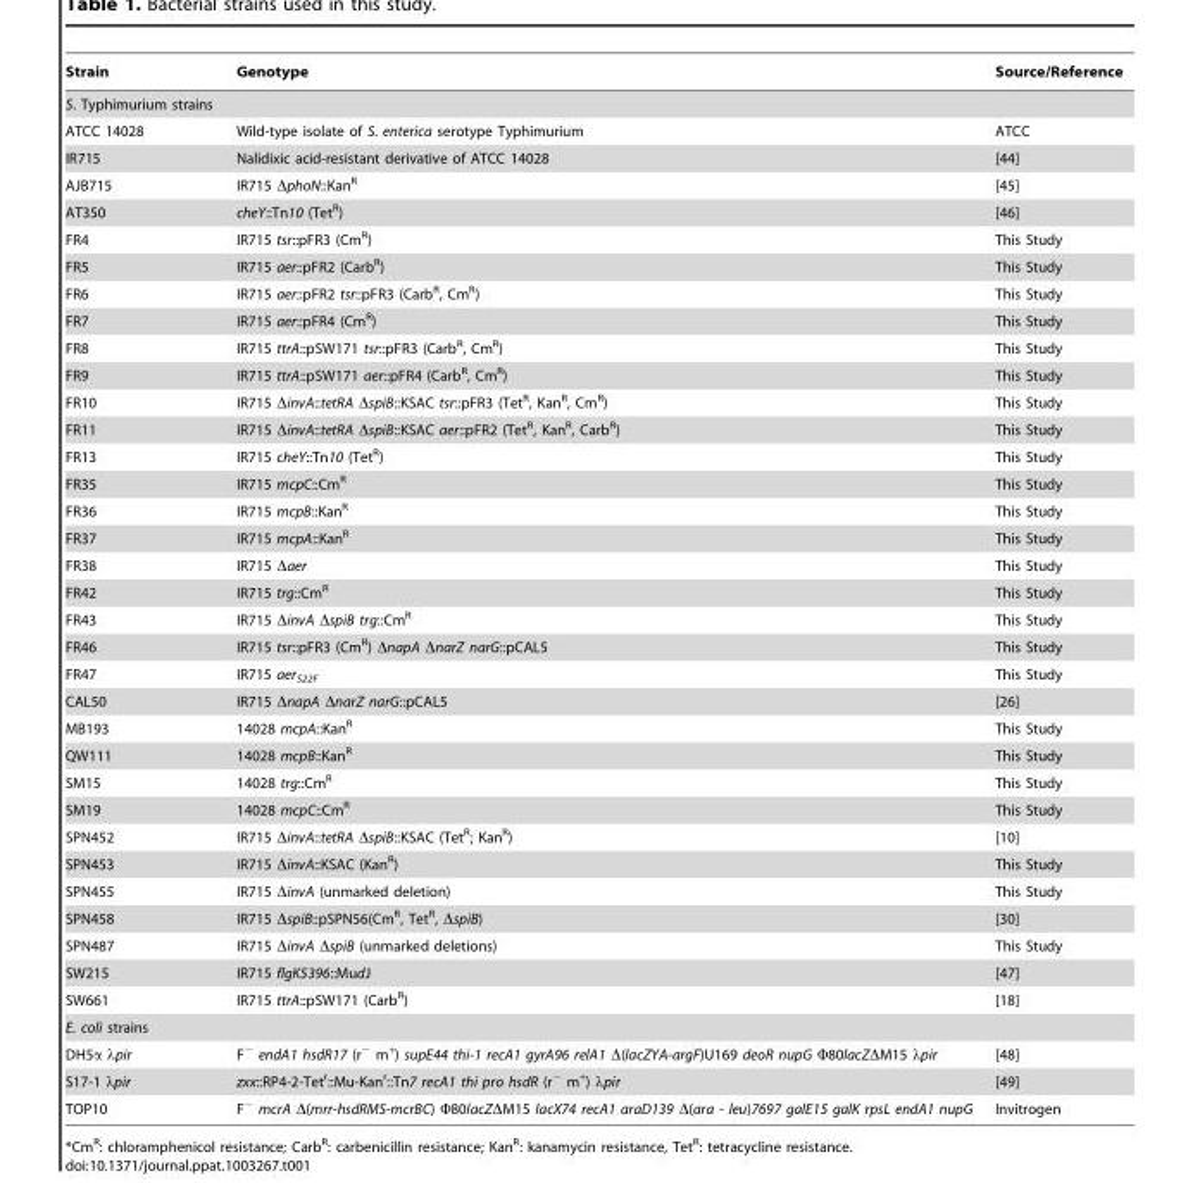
<table><thead><tr><td>Strain</td><td>Genotype</td><td>Source/Reference</td></tr></thead><tbody><tr><td colspan="3">S. Typhimurium strains</td></tr><tr><td>ATCC 14028</td><td>Wild-type isolate of S. enterica serotype Typhimurium</td><td>ATCC</td></tr><tr><td>IR715</td><td>Nalidixic acid-resistant derivative of ATCC 14028</td><td>[44]</td></tr><tr><td>AJB715</td><td>IR715 ΔphoN::Kan<sup>R</sup></td><td>[45]</td></tr><tr><td>AT350</td><td>cheY::Tn10 (Tet<sup>R</sup>)</td><td>[46]</td></tr><tr><td>FR4</td><td>IR715 tsr::pFR3 (Cm<sup>R</sup>)</td><td>This Study</td></tr><tr><td>FR5</td><td>IR715 aer::pFR2 (Carb<sup>R</sup>)</td><td>This Study</td></tr><tr><td>FR6</td><td>IR715 aer::pFR2 tsr::pFR3 (Carb<sup>R</sup>, Cm<sup>R</sup>)</td><td>This Study</td></tr><tr><td>FR7</td><td>IR715 aer::pFR4 (Cm<sup>R</sup>)</td><td>This Study</td></tr><tr><td>FR8</td><td>IR715 ttrA::pSW171 tsr::pFR3 (Carb<sup>R</sup>, Cm<sup>R</sup>)</td><td>This Study</td></tr><tr><td>FR9</td><td>IR715 ttrA::pSW171 aer::pFR4 (Carb<sup>R</sup>, Cm<sup>R</sup>)</td><td>This Study</td></tr><tr><td>FR10</td><td>IR715 ΔinvA::tetRA ΔspiB::KSAC tsr::pFR3 (Tet<sup>R</sup>, Kan<sup>R</sup>, Cm<sup>R</sup>)</td><td>This Study</td></tr><tr><td>FR11</td><td>IR715 ΔinvA::tetRA ΔspiB::KSAC aer::pFR2 (Tet<sup>R</sup>, Kan<sup>R</sup>, Carb<sup>R</sup>)</td><td>This Study</td></tr><tr><td>FR13</td><td>IR715 cheY::Tn10 (Tet<sup>R</sup>)</td><td>This Study</td></tr><tr><td>FR35</td><td>IR715 mcpC::Cm<sup>R</sup></td><td>This Study</td></tr><tr><td>FR36</td><td>IR715 mcpB::Kan<sup>R</sup></td><td>This Study</td></tr><tr><td>FR37</td><td>IR715 mcpA::Kan<sup>R</sup></td><td>This Study</td></tr><tr><td>FR38</td><td>IR715 Δaer</td><td>This Study</td></tr><tr><td>FR42</td><td>IR715 trg::Cm<sup>R</sup></td><td>This Study</td></tr><tr><td>FR43</td><td>IR715 ΔinvA ΔspiB trg::Cm<sup>R</sup></td><td>This Study</td></tr><tr><td>FR46</td><td>IR715 tsr::pFR3 (Cm<sup>R</sup>) ΔnapA ΔnarZ narG::pCAL5</td><td>This Study</td></tr><tr><td>FR47</td><td>IR715 aer<sub>S22F</sub></td><td>This Study</td></tr><tr><td>CAL50</td><td>IR715 ΔnapA ΔnarZ narG::pCAL5</td><td>[26]</td></tr><tr><td>MB193</td><td>14028 mcpA::Kan<sup>R</sup></td><td>This Study</td></tr><tr><td>QW111</td><td>14028 mcpB::Kan<sup>R</sup></td><td>This Study</td></tr><tr><td>SM15</td><td>14028 trg::Cm<sup>R</sup></td><td>This Study</td></tr><tr><td>SM19</td><td>14028 mcpC::Cm<sup>R</sup></td><td>This Study</td></tr><tr><td>SPN452</td><td>IR715 ΔinvA::tetRA ΔspiB::KSAC (Tet<sup>R</sup>; Kan<sup>R</sup>)</td><td>[10]</td></tr><tr><td>SPN453</td><td>IR715 ΔinvA::KSAC (Kan<sup>R</sup>)</td><td>This Study</td></tr><tr><td>SPN455</td><td>IR715 ΔinvA (unmarked deletion)</td><td>This Study</td></tr><tr><td>SPN458</td><td>IR715 ΔspiB::pSPN56(Cm<sup>R</sup>, Tet<sup>R</sup>, ΔspiB)</td><td>[30]</td></tr><tr><td>SPN487</td><td>IR715 ΔinvA ΔspiB (unmarked deletions)</td><td>This Study</td></tr><tr><td>SW215</td><td>IR715 flgK5396::MudJ</td><td>[47]</td></tr><tr><td>SW661</td><td>IR715 ttrA::pSW171 (Carb<sup>R</sup>)</td><td>[18]</td></tr><tr><td colspan="3">E. coli strains</td></tr><tr><td>DH5α λpir</td><td>F<sup>−</sup> endA1 hsdR17 (r<sup>−</sup> m<sup>+</sup>) supE44 thi-1 recA1 gyrA96 relA1 Δ(lacZYA-argF)U169 deoR nupG Φ80lacZΔM15 λpir</td><td>[48]</td></tr><tr><td>S17-1 λpir</td><td>zxx::RP4-2-Tet<sup>r</sup>::Mu-Kan<sup>r</sup>::Tn7 recA1 thi pro hsdR (r<sup>−</sup> m<sup>+</sup>) λpir</td><td>[49]</td></tr><tr><td>TOP10</td><td>F<sup>−</sup> mcrA Δ(mrr-hsdRMS-mcrBC) Φ80lacZΔM15 lacX74 recA1 araD139 Δ(ara - leu)7697 galE15 galK rpsL endA1 nupG</td><td>Invitrogen</td></tr></tbody></table>